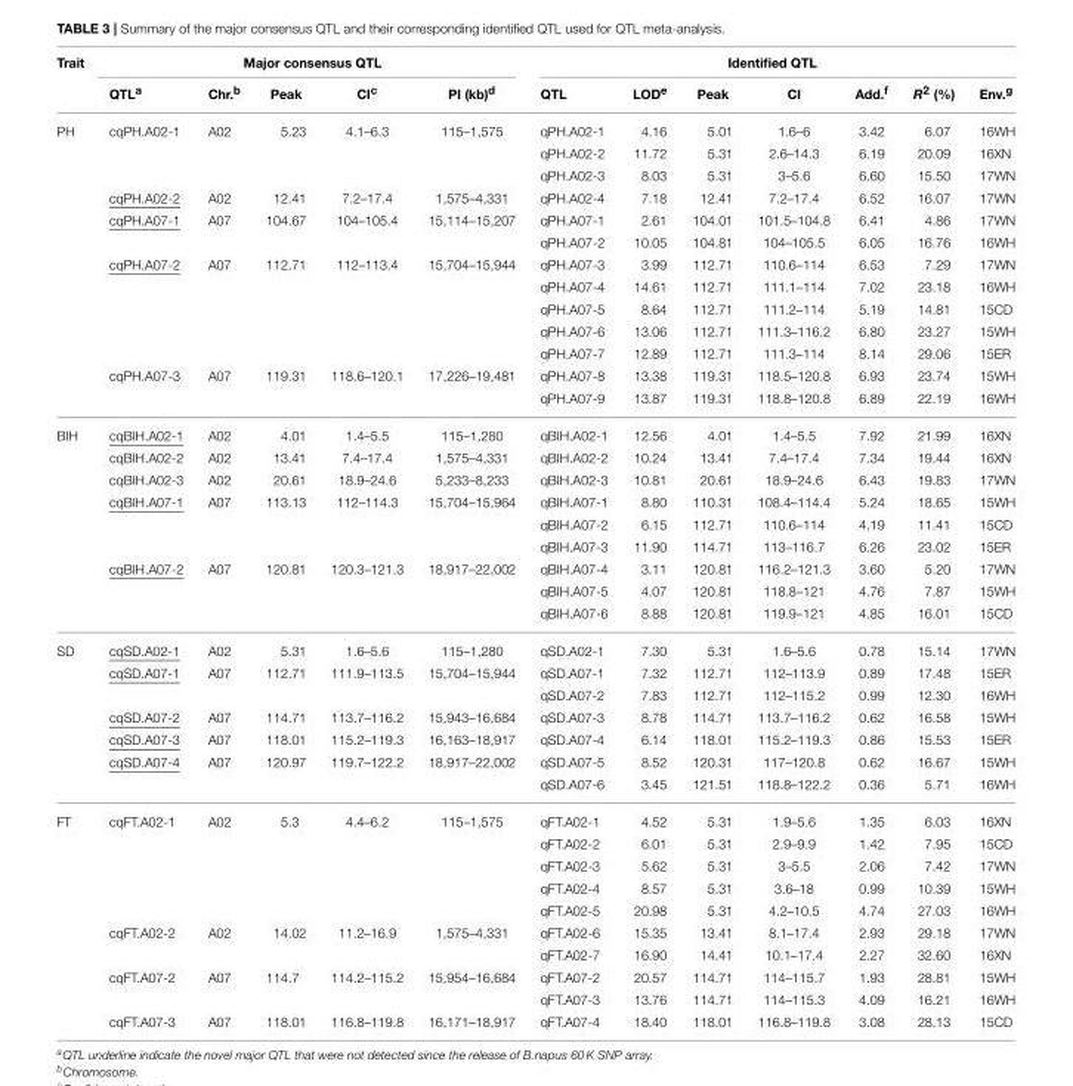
<table><thead><tr><td rowspan="2">Trait</td><td colspan="5">Major consensus QTL</td><td colspan="7">Identified QTL</td></tr><tr><td>QTL<sup>a</sup></td><td>Chr.<sup>b</sup></td><td>Peak</td><td>CI<sup>c</sup></td><td>PI (kb)<sup>d</sup></td><td>QTL</td><td>LOD<sup>e</sup></td><td>Peak</td><td>CI</td><td>Add.<sup>f</sup></td><td>R<sup>2</sup> (%)</td><td>Env.<sup>g</sup></td></tr></thead><tbody><tr><td rowspan="13">PH</td><td>cqPH.A02-1</td><td>A02</td><td>5.23</td><td>4.1–6.3</td><td>115–1,575</td><td>qPH.A02-1</td><td>4.16</td><td>5.01</td><td>1.6–6</td><td>3.42</td><td>6.07</td><td>16WH</td></tr><tr><td></td><td></td><td></td><td></td><td></td><td>qPH.A02-2</td><td>11.72</td><td>5.31</td><td>2.6–14.3</td><td>6.19</td><td>20.09</td><td>16XN</td></tr><tr><td></td><td></td><td></td><td></td><td></td><td>qPH.A02-3</td><td>8.03</td><td>5.31</td><td>3–5.6</td><td>6.60</td><td>15.50</td><td>17WN</td></tr><tr><td>cqPH.A02-2</td><td>A02</td><td>12.41</td><td>7.2–17.4</td><td>1,575–4,331</td><td>qPH.A02-4</td><td>7.18</td><td>12.41</td><td>7.2–17.4</td><td>6.52</td><td>16.07</td><td>17WN</td></tr><tr><td>cqPH.A07-1</td><td>A07</td><td>104.67</td><td>104–105.4</td><td>15,114–15,207</td><td>qPH.A07-1</td><td>2.61</td><td>104.01</td><td>101.5–104.8</td><td>6.41</td><td>4.86</td><td>17WN</td></tr><tr><td></td><td></td><td></td><td></td><td></td><td>qPH.A07-2</td><td>10.05</td><td>104.81</td><td>104–105.5</td><td>6.05</td><td>16.76</td><td>16WH</td></tr><tr><td>cqPH.A07-2</td><td>A07</td><td>112.71</td><td>112–113.4</td><td>15,704–15,944</td><td>qPH.A07-3</td><td>3.99</td><td>112.71</td><td>110.6–114</td><td>6.53</td><td>7.29</td><td>17WN</td></tr><tr><td></td><td></td><td></td><td></td><td></td><td>qPH.A07-4</td><td>14.61</td><td>112.71</td><td>111.1–114</td><td>7.02</td><td>23.18</td><td>16WH</td></tr><tr><td></td><td></td><td></td><td></td><td></td><td>qPH.A07-5</td><td>8.64</td><td>112.71</td><td>111.2–114</td><td>5.19</td><td>14.81</td><td>15CD</td></tr><tr><td></td><td></td><td></td><td></td><td></td><td>qPH.A07-6</td><td>13.06</td><td>112.71</td><td>111.3–116.2</td><td>6.80</td><td>23.27</td><td>15WH</td></tr><tr><td></td><td></td><td></td><td></td><td></td><td>qPH.A07-7</td><td>12.89</td><td>112.71</td><td>111.3–114</td><td>8.14</td><td>29.06</td><td>15ER</td></tr><tr><td>cqPH.A07-3</td><td>A07</td><td>119.31</td><td>118.6–120.1</td><td>17,226–19,481</td><td>qPH.A07-8</td><td>13.38</td><td>119.31</td><td>118.5–120.8</td><td>6.93</td><td>23.74</td><td>15WH</td></tr><tr><td></td><td></td><td></td><td></td><td></td><td>qPH.A07-9</td><td>13.87</td><td>119.31</td><td>118.8–120.8</td><td>6.89</td><td>22.19</td><td>16WH</td></tr><tr><td rowspan="9">BIH</td><td>cqBIH.A02-1</td><td>A02</td><td>4.01</td><td>1.4–5.5</td><td>115–1,280</td><td>qBIH.A02-1</td><td>12.56</td><td>4.01</td><td>1.4–5.5</td><td>7.92</td><td>21.99</td><td>16XN</td></tr><tr><td>cqBIH.A02-2</td><td>A02</td><td>13.41</td><td>7.4–17.4</td><td>1,575–4,331</td><td>qBIH.A02-2</td><td>10.24</td><td>13.41</td><td>7.4–17.4</td><td>7.34</td><td>19.44</td><td>16XN</td></tr><tr><td>cqBIH.A02-3</td><td>A02</td><td>20.61</td><td>18.9–24.6</td><td>5,233–8,233</td><td>qBIH.A02-3</td><td>10.81</td><td>20.61</td><td>18.9–24.6</td><td>6.43</td><td>19.83</td><td>17WN</td></tr><tr><td>cqBIH.A07-1</td><td>A07</td><td>113.13</td><td>112–114.3</td><td>15,704–15,964</td><td>qBIH.A07-1</td><td>8.80</td><td>110.31</td><td>108.4–114.4</td><td>5.24</td><td>18.65</td><td>15WH</td></tr><tr><td></td><td></td><td></td><td></td><td></td><td>qBIH.A07-2</td><td>6.15</td><td>112.71</td><td>110.6–114</td><td>4.19</td><td>11.41</td><td>15CD</td></tr><tr><td></td><td></td><td></td><td></td><td></td><td>qBIH.A07-3</td><td>11.90</td><td>114.71</td><td>113–116.7</td><td>6.26</td><td>23.02</td><td>15ER</td></tr><tr><td>cqBIH.A07-2</td><td>A07</td><td>120.81</td><td>120.3–121.3</td><td>18,917–22,002</td><td>qBIH.A07-4</td><td>3.11</td><td>120.81</td><td>116.2–121.3</td><td>3.60</td><td>5.20</td><td>17WN</td></tr><tr><td></td><td></td><td></td><td></td><td></td><td>qBIH.A07-5</td><td>4.07</td><td>120.81</td><td>118.8–121</td><td>4.76</td><td>7.87</td><td>15WH</td></tr><tr><td></td><td></td><td></td><td></td><td></td><td>qBIH.A07-6</td><td>8.88</td><td>120.81</td><td>119.9–121</td><td>4.85</td><td>16.01</td><td>15CD</td></tr><tr><td rowspan="7">SD</td><td>cqSD.A02-1</td><td>A02</td><td>5.31</td><td>1.6–5.6</td><td>115–1,280</td><td>qSD.A02-1</td><td>7.30</td><td>5.31</td><td>1.6–5.6</td><td>0.78</td><td>15.14</td><td>17WN</td></tr><tr><td>cqSD.A07-1</td><td>A07</td><td>112.71</td><td>111.9–113.5</td><td>15,704–15,944</td><td>qSD.A07-1</td><td>7.32</td><td>112.71</td><td>112–113.9</td><td>0.89</td><td>17.48</td><td>15ER</td></tr><tr><td></td><td></td><td></td><td></td><td></td><td>qSD.A07-2</td><td>7.83</td><td>112.71</td><td>112–115.2</td><td>0.99</td><td>12.30</td><td>16WH</td></tr><tr><td>cqSD.A07-2</td><td>A07</td><td>114.71</td><td>113.7–116.2</td><td>15,943–16,684</td><td>qSD.A07-3</td><td>8.78</td><td>114.71</td><td>113.7–116.2</td><td>0.62</td><td>16.58</td><td>15WH</td></tr><tr><td>cqSD.A07-3</td><td>A07</td><td>118.01</td><td>115.2–119.3</td><td>16,163–18,917</td><td>qSD.A07-4</td><td>6.14</td><td>118.01</td><td>115.2–119.3</td><td>0.86</td><td>15.53</td><td>15ER</td></tr><tr><td>cqSD.A07-4</td><td>A07</td><td>120.97</td><td>119.7–122.2</td><td>18,917–22,002</td><td>qSD.A07-5</td><td>8.52</td><td>120.31</td><td>117–120.8</td><td>0.62</td><td>16.67</td><td>15WH</td></tr><tr><td></td><td></td><td></td><td></td><td></td><td>qSD.A07-6</td><td>3.45</td><td>121.51</td><td>118.8–122.2</td><td>0.36</td><td>5.71</td><td>16WH</td></tr><tr><td rowspan="10">FT</td><td>cqFT.A02-1</td><td>A02</td><td>5.3</td><td>4.4–6.2</td><td>115–1,575</td><td>qFT.A02-1</td><td>4.52</td><td>5.31</td><td>1.9–5.6</td><td>1.35</td><td>6.03</td><td>16XN</td></tr><tr><td></td><td></td><td></td><td></td><td></td><td>qFT.A02-2</td><td>6.01</td><td>5.31</td><td>2.9–9.9</td><td>1.42</td><td>7.95</td><td>15CD</td></tr><tr><td></td><td></td><td></td><td></td><td></td><td>qFT.A02-3</td><td>5.62</td><td>5.31</td><td>3–5.5</td><td>2.06</td><td>7.42</td><td>17WN</td></tr><tr><td></td><td></td><td></td><td></td><td></td><td>qFT.A02-4</td><td>8.57</td><td>5.31</td><td>3.6–18</td><td>0.99</td><td>10.39</td><td>15WH</td></tr><tr><td></td><td></td><td></td><td></td><td></td><td>qFT.A02-5</td><td>20.98</td><td>5.31</td><td>4.2–10.5</td><td>4.74</td><td>27.03</td><td>16WH</td></tr><tr><td>cqFT.A02-2</td><td>A02</td><td>14.02</td><td>11.2–16.9</td><td>1,575–4,331</td><td>qFT.A02-6</td><td>15.35</td><td>13.41</td><td>8.1–17.4</td><td>2.93</td><td>29.18</td><td>17WN</td></tr><tr><td></td><td></td><td></td><td></td><td></td><td>qFT.A02-7</td><td>16.90</td><td>14.41</td><td>10.1–17.4</td><td>2.27</td><td>32.60</td><td>16XN</td></tr><tr><td>cqFT.A07-2</td><td>A07</td><td>114.7</td><td>114.2–115.2</td><td>15,954–16,684</td><td>qFT.A07-2</td><td>20.57</td><td>114.71</td><td>114–115.7</td><td>1.93</td><td>28.81</td><td>15WH</td></tr><tr><td></td><td></td><td></td><td></td><td></td><td>qFT.A07-3</td><td>13.76</td><td>114.71</td><td>114–115.3</td><td>4.09</td><td>16.21</td><td>16WH</td></tr><tr><td>cqFT.A07-3</td><td>A07</td><td>118.01</td><td>116.8–119.8</td><td>16,171–18,917</td><td>qFT.A07-4</td><td>18.40</td><td>118.01</td><td>116.8–119.8</td><td>3.08</td><td>28.13</td><td>15CD</td></tr></tbody></table>